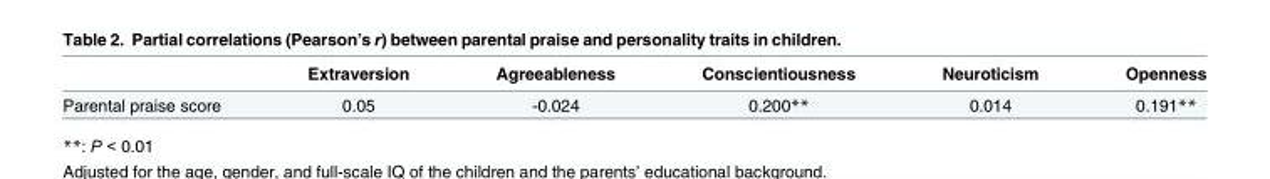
<table><thead><tr><td></td><td>Extraversion</td><td>Agreeableness</td><td>Conscientiousness</td><td>Neuroticism</td><td>Openness</td></tr></thead><tbody><tr><td>Parental praise score</td><td>0.05</td><td>-0.024</td><td>0.200**</td><td>0.014</td><td>0.191**</td></tr></tbody></table>